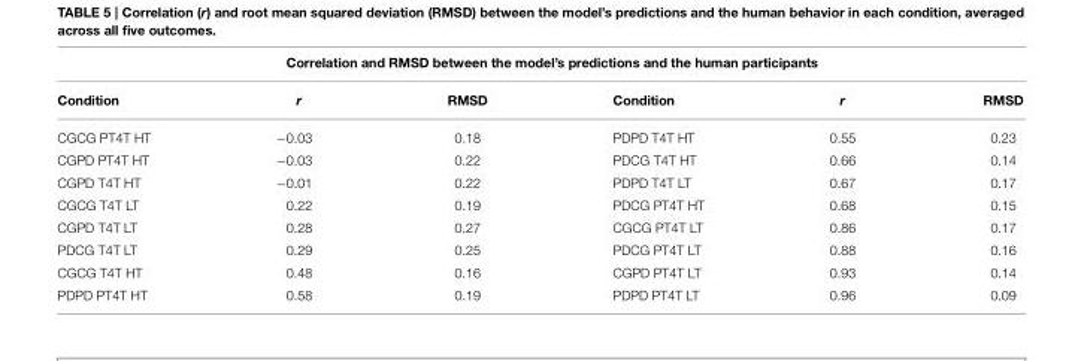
<table><thead><tr><td colspan="6">Correlation and RMSD between the model’s predictions and the human participants</td></tr><tr><td>Condition</td><td>r</td><td>RMSD</td><td>Condition</td><td>r</td><td>RMSD</td></tr></thead><tbody><tr><td>CGCG PT4T HT</td><td>−0.03</td><td>0.18</td><td>PDPD T4T HT</td><td>0.55</td><td>0.23</td></tr><tr><td>CGPD PT4T HT</td><td>−0.03</td><td>0.22</td><td>PDCG T4T HT</td><td>0.66</td><td>0.14</td></tr><tr><td>CGPD T4T HT</td><td>−0.01</td><td>0.22</td><td>PDPD T4T LT</td><td>0.67</td><td>0.17</td></tr><tr><td>CGCG T4T LT</td><td>0.22</td><td>0.19</td><td>PDCG PT4T HT</td><td>0.68</td><td>0.15</td></tr><tr><td>CGPD T4T LT</td><td>0.28</td><td>0.27</td><td>CGCG PT4T LT</td><td>0.86</td><td>0.17</td></tr><tr><td>PDCG T4T LT</td><td>0.29</td><td>0.25</td><td>PDCG PT4T LT</td><td>0.88</td><td>0.16</td></tr><tr><td>CGCG T4T HT</td><td>0.48</td><td>0.16</td><td>CGPD PT4T LT</td><td>0.93</td><td>0.14</td></tr><tr><td>PDPD PT4T HT</td><td>0.58</td><td>0.19</td><td>PDPD PT4T LT</td><td>0.96</td><td>0.09</td></tr></tbody></table>